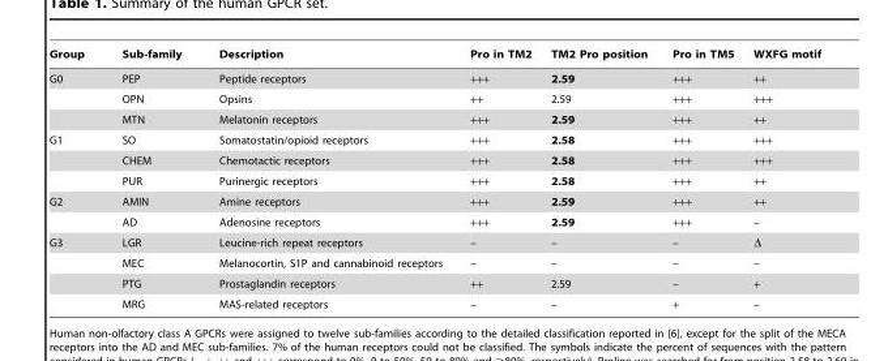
<table><thead><tr><td>Group</td><td>Sub-family</td><td>Description</td><td>Pro in TM2</td><td>TM2 Pro position</td><td>Pro in TM5</td><td>WXFG motif</td></tr></thead><tbody><tr><td rowspan="3">G0</td><td>PEP</td><td>Peptide receptors</td><td>+++</td><td>2.59</td><td>+++</td><td>++</td></tr><tr><td>OPN</td><td>Opsins</td><td>++</td><td>2.59</td><td>+++</td><td>+++</td></tr><tr><td>MTN</td><td>Melatonin receptors</td><td>+++</td><td>2.59</td><td>+++</td><td>++</td></tr><tr><td rowspan="3">G1</td><td>SO</td><td>Somatostatin/opioid receptors</td><td>+++</td><td>2.58</td><td>+++</td><td>+++</td></tr><tr><td>CHEM</td><td>Chemotactic receptors</td><td>+++</td><td>2.58</td><td>+++</td><td>+++</td></tr><tr><td>PUR</td><td>Purinergic receptors</td><td>+++</td><td>2.58</td><td>+++</td><td>++</td></tr><tr><td rowspan="2">G2</td><td>AMIN</td><td>Amine receptors</td><td>+++</td><td>2.59</td><td>+++</td><td>++</td></tr><tr><td>AD</td><td>Adenosine receptors</td><td>+++</td><td>2.59</td><td>+++</td><td>–</td></tr><tr><td rowspan="4">G3</td><td>LGR</td><td>Leucine-rich repeat receptors</td><td>–</td><td>–</td><td>–</td><td>Δ</td></tr><tr><td>MEC</td><td>Melanocortin, S1P and cannabinoid receptors</td><td>–</td><td>–</td><td>–</td><td>–</td></tr><tr><td>PTG</td><td>Prostaglandin receptors</td><td>++</td><td>2.59</td><td>–</td><td>+</td></tr><tr><td>MRG</td><td>MAS-related receptors</td><td>–</td><td>–</td><td>+</td><td>–</td></tr></tbody></table>